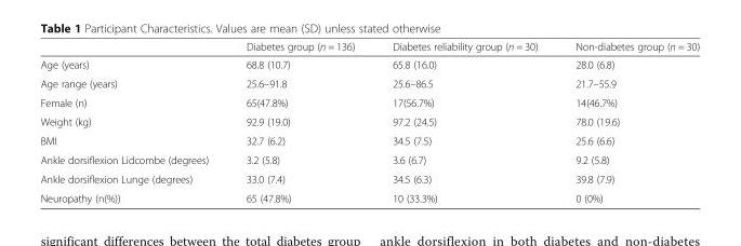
<table><thead><tr><td></td><td>Diabetes group (n = 136)</td><td>Diabetes reliability group (n = 30)</td><td>Non-diabetes group (n = 30)</td></tr></thead><tbody><tr><td>Age (years)</td><td>68.8 (10.7)</td><td>65.8 (16.0)</td><td>28.0 (6.8)</td></tr><tr><td>Age range (years)</td><td>25.6–91.8</td><td>25.6–86.5</td><td>21.7–55.9</td></tr><tr><td>Female (n)</td><td>65(47.8%)</td><td>17(56.7%)</td><td>14(46.7%)</td></tr><tr><td>Weight (kg)</td><td>92.9 (19.0)</td><td>97.2 (24.5)</td><td>78.0 (19.6)</td></tr><tr><td>BMI</td><td>32.7 (6.2)</td><td>34.5 (7.5)</td><td>25.6 (6.6)</td></tr><tr><td>Ankle dorsiflexion Lidcombe (degrees)</td><td>3.2 (5.8)</td><td>3.6 (6.7)</td><td>9.2 (5.8)</td></tr><tr><td>Ankle dorsiflexion Lunge (degrees)</td><td>33.0 (7.4)</td><td>34.5 (6.3)</td><td>39.8 (7.9)</td></tr><tr><td>Neuropathy (n(%))</td><td>65 (47.8%)</td><td>10 (33.3%)</td><td>0 (0%)</td></tr></tbody></table>